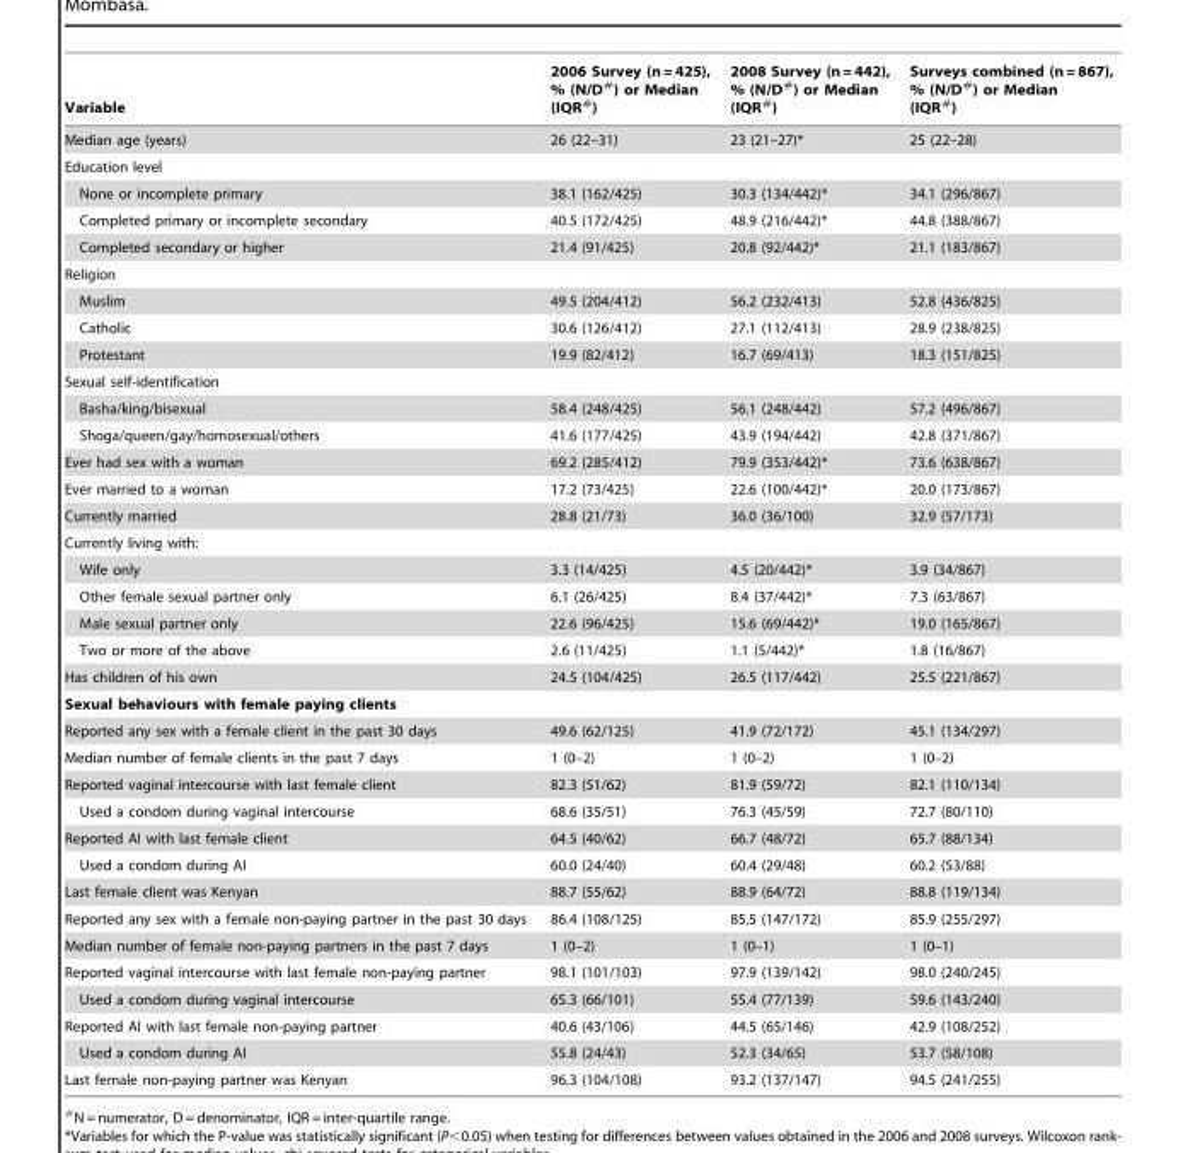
<table><thead><tr><td>Variable</td><td>2006 Survey (n = 425), % (N/D#) or Median (IQR#)</td><td>2008 Survey (n = 442), % (N/D#) or Median (IQR#)</td><td>Surveys combined (n = 867), % (N/D#) or Median (IQR#)</td></tr></thead><tbody><tr><td>Median age (years)</td><td>26 (22–31)</td><td>23 (21–27)*</td><td>25 (22–28)</td></tr><tr><td colspan="4">Education level</td></tr><tr><td>None or incomplete primary</td><td>38.1 (162/425)</td><td>30.3 (134/442)*</td><td>34.1 (296/867)</td></tr><tr><td>Completed primary or incomplete secondary</td><td>40.5 (172/425)</td><td>48.9 (216/442)*</td><td>44.8 (388/867)</td></tr><tr><td>Completed secondary or higher</td><td>21.4 (91/425)</td><td>20.8 (92/442)*</td><td>21.1 (183/867)</td></tr><tr><td colspan="4">Religion</td></tr><tr><td>Muslim</td><td>49.5 (204/412)</td><td>56.2 (232/413)</td><td>52.8 (436/825)</td></tr><tr><td>Catholic</td><td>30.6 (126/412)</td><td>27.1 (112/413)</td><td>28.9 (238/825)</td></tr><tr><td>Protestant</td><td>19.9 (82/412)</td><td>16.7 (69/413)</td><td>18.3 (151/825)</td></tr><tr><td colspan="4">Sexual self-identification</td></tr><tr><td>Basha/king/bisexual</td><td>58.4 (248/425)</td><td>56.1 (248/442)</td><td>57.2 (496/867)</td></tr><tr><td>Shoga/queen/gay/homosexual/others</td><td>41.6 (177/425)</td><td>43.9 (194/442)</td><td>42.8 (371/867)</td></tr><tr><td>Ever had sex with a woman</td><td>69.2 (285/412)</td><td>79.9 (353/442)*</td><td>73.6 (638/867)</td></tr><tr><td>Ever married to a woman</td><td>17.2 (73/425)</td><td>22.6 (100/442)*</td><td>20.0 (173/867)</td></tr><tr><td>Currently married</td><td>28.8 (21/73)</td><td>36.0 (36/100)</td><td>32.9 (57/173)</td></tr><tr><td colspan="4">Currently living with:</td></tr><tr><td>Wife only</td><td>3.3 (14/425)</td><td>4.5 (20/442)*</td><td>3.9 (34/867)</td></tr><tr><td>Other female sexual partner only</td><td>6.1 (26/425)</td><td>8.4 (37/442)*</td><td>7.3 (63/867)</td></tr><tr><td>Male sexual partner only</td><td>22.6 (96/425)</td><td>15.6 (69/442)*</td><td>19.0 (165/867)</td></tr><tr><td>Two or more of the above</td><td>2.6 (11/425)</td><td>1.1 (5/442)*</td><td>1.8 (16/867)</td></tr><tr><td>Has children of his own</td><td>24.5 (104/425)</td><td>26.5 (117/442)</td><td>25.5 (221/867)</td></tr><tr><td colspan="4">Sexual behaviours with female paying clients</td></tr><tr><td>Reported any sex with a female client in the past 30 days</td><td>49.6 (62/125)</td><td>41.9 (72/172)</td><td>45.1 (134/297)</td></tr><tr><td>Median number of female clients in the past 7 days</td><td>1 (0–2)</td><td>1 (0–2)</td><td>1 (0–2)</td></tr><tr><td>Reported vaginal intercourse with last female client</td><td>82.3 (51/62)</td><td>81.9 (59/72)</td><td>82.1 (110/134)</td></tr><tr><td>Used a condom during vaginal intercourse</td><td>68.6 (35/51)</td><td>76.3 (45/59)</td><td>72.7 (80/110)</td></tr><tr><td>Reported AI with last female client</td><td>64.5 (40/62)</td><td>66.7 (48/72)</td><td>65.7 (88/134)</td></tr><tr><td>Used a condom during AI</td><td>60.0 (24/40)</td><td>60.4 (29/48)</td><td>60.2 (53/88)</td></tr><tr><td>Last female client was Kenyan</td><td>88.7 (55/62)</td><td>88.9 (64/72)</td><td>88.8 (119/134)</td></tr><tr><td>Reported any sex with a female non-paying partner in the past 30 days</td><td>86.4 (108/125)</td><td>85.5 (147/172)</td><td>85.9 (255/297)</td></tr><tr><td>Median number of female non-paying partners in the past 7 days</td><td>1 (0–2)</td><td>1 (0–1)</td><td>1 (0–1)</td></tr><tr><td>Reported vaginal intercourse with last female non-paying partner</td><td>98.1 (101/103)</td><td>97.9 (139/142)</td><td>98.0 (240/245)</td></tr><tr><td>Used a condom during vaginal intercourse</td><td>65.3 (66/101)</td><td>55.4 (77/139)</td><td>59.6 (143/240)</td></tr><tr><td>Reported AI with last female non-paying partner</td><td>40.6 (43/106)</td><td>44.5 (65/146)</td><td>42.9 (108/252)</td></tr><tr><td>Used a condom during AI</td><td>55.8 (24/43)</td><td>52.3 (34/65)</td><td>53.7 (58/108)</td></tr><tr><td>Last female non-paying partner was Kenyan</td><td>96.3 (104/108)</td><td>93.2 (137/147)</td><td>94.5 (241/255)</td></tr></tbody></table>